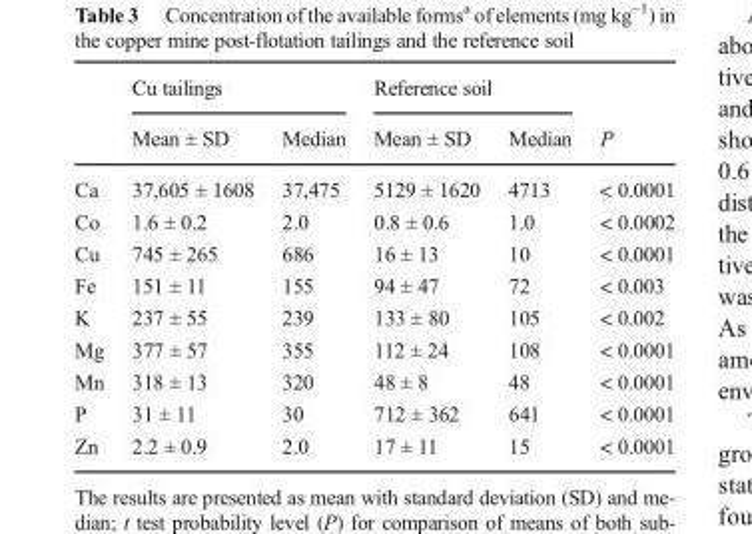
<table><thead><tr><td rowspan="2"></td><td colspan="2">Cu tailings</td><td colspan="2">Reference soil</td><td rowspan="2">P</td></tr><tr><td>Mean ± SD</td><td>Median</td><td>Mean ± SD</td><td>Median</td></tr></thead><tbody><tr><td>Ca</td><td>37,605 ± 1608</td><td>37,475</td><td>5129 ± 1620</td><td>4713</td><td>&lt; 0.0001</td></tr><tr><td>Co</td><td>1.6 ± 0.2</td><td>2.0</td><td>0.8 ± 0.6</td><td>1.0</td><td>&lt; 0.0002</td></tr><tr><td>Cu</td><td>745 ± 265</td><td>686</td><td>16 ± 13</td><td>10</td><td>&lt; 0.0001</td></tr><tr><td>Fe</td><td>151 ± 11</td><td>155</td><td>94 ± 47</td><td>72</td><td>&lt; 0.003</td></tr><tr><td>K</td><td>237 ± 55</td><td>239</td><td>133 ± 80</td><td>105</td><td>&lt; 0.002</td></tr><tr><td>Mg</td><td>377 ± 57</td><td>355</td><td>112 ± 24</td><td>108</td><td>&lt; 0.0001</td></tr><tr><td>Mn</td><td>318 ± 13</td><td>320</td><td>48 ± 8</td><td>48</td><td>&lt; 0.0001</td></tr><tr><td>P</td><td>31 ± 11</td><td>30</td><td>712 ± 362</td><td>641</td><td>&lt; 0.0001</td></tr><tr><td>Zn</td><td>2.2 ± 0.9</td><td>2.0</td><td>17 ± 11</td><td>15</td><td>&lt; 0.0001</td></tr></tbody></table>